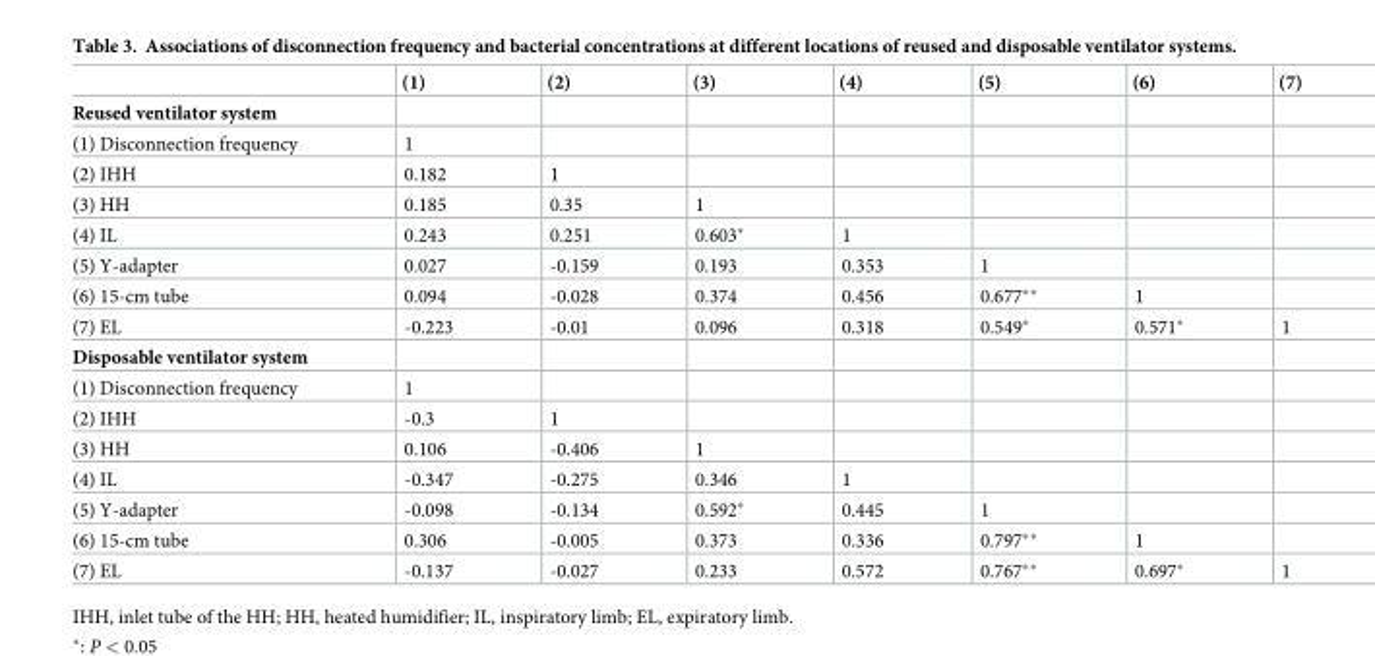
<table><thead><tr><td></td><td>(1)</td><td>(2)</td><td>(3)</td><td>(4)</td><td>(5)</td><td>(6)</td><td>(7)</td></tr></thead><tbody><tr><td colspan="8">Reused ventilator system</td></tr><tr><td>(1) Disconnection frequency</td><td>1</td><td></td><td></td><td></td><td></td><td></td><td></td></tr><tr><td>(2) IHH</td><td>0.182</td><td>1</td><td></td><td></td><td></td><td></td><td></td></tr><tr><td>(3) HH</td><td>0.185</td><td>0.35</td><td>1</td><td></td><td></td><td></td><td></td></tr><tr><td>(4) IL</td><td>0.243</td><td>0.251</td><td>0.603*</td><td>1</td><td></td><td></td><td></td></tr><tr><td>(5) Y-adapter</td><td>0.027</td><td>-0.159</td><td>0.193</td><td>0.353</td><td>1</td><td></td><td></td></tr><tr><td>(6) 15-cm tube</td><td>0.094</td><td>-0.028</td><td>0.374</td><td>0.456</td><td>0.677**</td><td>1</td><td></td></tr><tr><td>(7) EL</td><td>-0.223</td><td>-0.01</td><td>0.096</td><td>0.318</td><td>0.549*</td><td>0.571*</td><td>1</td></tr><tr><td colspan="8">Disposable ventilator system</td></tr><tr><td>(1) Disconnection frequency</td><td>1</td><td></td><td></td><td></td><td></td><td></td><td></td></tr><tr><td>(2) IHH</td><td>-0.3</td><td>1</td><td></td><td></td><td></td><td></td><td></td></tr><tr><td>(3) HH</td><td>0.106</td><td>-0.406</td><td>1</td><td></td><td></td><td></td><td></td></tr><tr><td>(4) IL</td><td>-0.347</td><td>-0.275</td><td>0.346</td><td>1</td><td></td><td></td><td></td></tr><tr><td>(5) Y-adapter</td><td>-0.098</td><td>-0.134</td><td>0.592*</td><td>0.445</td><td>1</td><td></td><td></td></tr><tr><td>(6) 15-cm tube</td><td>0.306</td><td>-0.005</td><td>0.373</td><td>0.336</td><td>0.797**</td><td>1</td><td></td></tr><tr><td>(7) EL</td><td>-0.137</td><td>-0.027</td><td>0.233</td><td>0.572</td><td>0.767**</td><td>0.697*</td><td>1</td></tr></tbody></table>